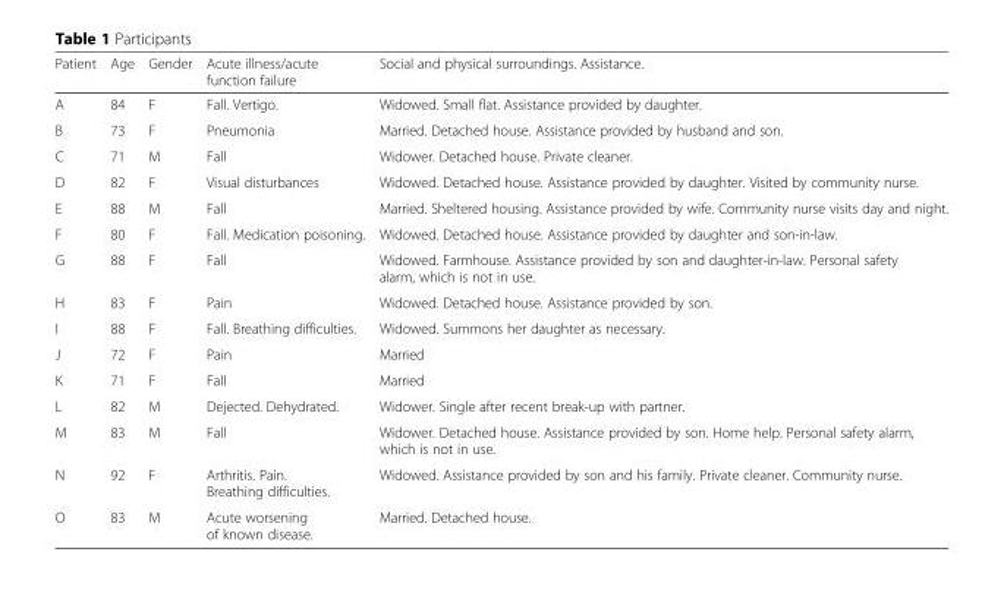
<table><thead><tr><td>Patient</td><td>Age</td><td>Gender</td><td>Acute illness/acute function failure</td><td>Social and physical surroundings. Assistance.</td></tr></thead><tbody><tr><td>A</td><td>84</td><td>F</td><td>Fall. Vertigo.</td><td>Widowed. Small flat. Assistance provided by daughter.</td></tr><tr><td>B</td><td>73</td><td>F</td><td>Pneumonia</td><td>Married. Detached house. Assistance provided by husband and son.</td></tr><tr><td>C</td><td>71</td><td>M</td><td>Fall</td><td>Widower. Detached house. Private cleaner.</td></tr><tr><td>D</td><td>82</td><td>F</td><td>Visual disturbances</td><td>Widowed. Detached house. Assistance provided by daughter. Visited by community nurse.</td></tr><tr><td>E</td><td>88</td><td>M</td><td>Fall</td><td>Married. Sheltered housing. Assistance provided by wife. Community nurse visits day and night.</td></tr><tr><td>F</td><td>80</td><td>F</td><td>Fall. Medication poisoning.</td><td>Widowed. Detached house. Assistance provided by daughter and son-in-law.</td></tr><tr><td>G</td><td>88</td><td>F</td><td>Fall</td><td>Widowed. Farmhouse. Assistance provided by son and daughter-in-law. Personal safety alarm, which is not in use.</td></tr><tr><td>H</td><td>83</td><td>F</td><td>Pain</td><td>Widowed. Detached house. Assistance provided by son.</td></tr><tr><td>I</td><td>88</td><td>F</td><td>Fall. Breathing difficulties.</td><td>Widowed. Summons her daughter as necessary.</td></tr><tr><td>J</td><td>72</td><td>F</td><td>Pain</td><td>Married</td></tr><tr><td>K</td><td>71</td><td>F</td><td>Fall</td><td>Married</td></tr><tr><td>L</td><td>82</td><td>M</td><td>Dejected. Dehydrated.</td><td>Widower. Single after recent break-up with partner.</td></tr><tr><td>M</td><td>83</td><td>M</td><td>Fall</td><td>Widower. Detached house. Assistance provided by son. Home help. Personal safety alarm, which is not in use.</td></tr><tr><td>N</td><td>92</td><td>F</td><td>Arthritis. Pain. Breathing difficulties.</td><td>Widowed. Assistance provided by son and his family. Private cleaner. Community nurse.</td></tr><tr><td>O</td><td>83</td><td>M</td><td>Acute worsening of known disease.</td><td>Married. Detached house.</td></tr></tbody></table>